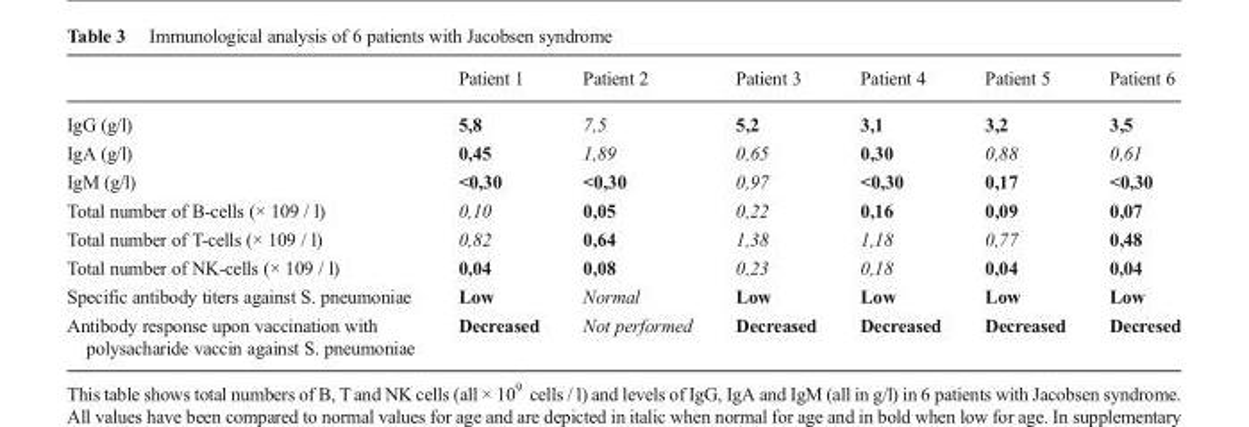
<table><thead><tr><td></td><td>Patient 1</td><td>Patient 2</td><td>Patient 3</td><td>Patient 4</td><td>Patient 5</td><td>Patient 6</td></tr></thead><tbody><tr><td>IgG (g/l)</td><td>5,8</td><td>7,5</td><td>5,2</td><td>3,1</td><td>3,2</td><td>3,5</td></tr><tr><td>IgA (g/l)</td><td>0,45</td><td>1,89</td><td>0,65</td><td>0,30</td><td>0,88</td><td>0,61</td></tr><tr><td>IgM (g/l)</td><td>&lt;0,30</td><td>&lt;0,30</td><td>0,97</td><td>&lt;0,30</td><td>0,17</td><td>&lt;0,30</td></tr><tr><td>Total number of B-cells (× 109 / l)</td><td>0,10</td><td>0,05</td><td>0,22</td><td>0,16</td><td>0,09</td><td>0,07</td></tr><tr><td>Total number of T-cells (× 109 / l)</td><td>0,82</td><td>0,64</td><td>1,38</td><td>1,18</td><td>0,77</td><td>0,48</td></tr><tr><td>Total number of NK-cells (× 109 / l)</td><td>0,04</td><td>0,08</td><td>0,23</td><td>0,18</td><td>0,04</td><td>0,04</td></tr><tr><td>Specific antibody titers against S. pneumoniae</td><td>Low</td><td>Normal</td><td>Low</td><td>Low</td><td>Low</td><td>Low</td></tr><tr><td>Antibody response upon vaccination with polysacharide vaccin against S. pneumoniae</td><td>Decreased</td><td>Not performed</td><td>Decreased</td><td>Decreased</td><td>Decreased</td><td>Decresed</td></tr></tbody></table>